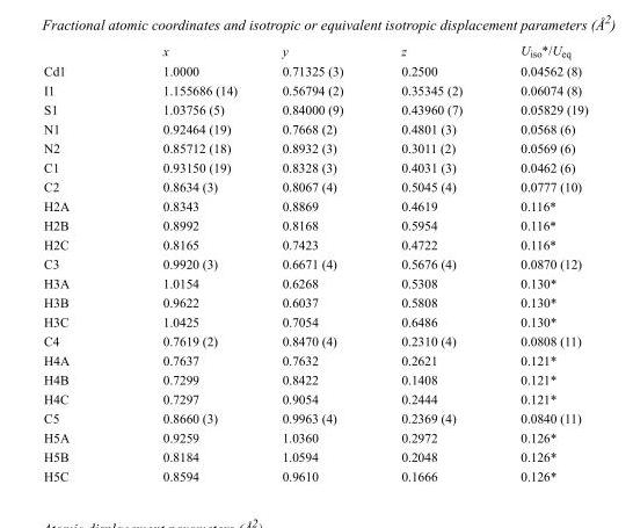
<table><thead><tr><td></td><td>x</td><td>y</td><td>z</td><td>U<sub>iso</sub>*/U<sub>eq</sub></td></tr></thead><tbody><tr><td>Cd1</td><td>1.0000</td><td>0.71325 (3)</td><td>0.2500</td><td>0.04562 (8)</td></tr><tr><td>I1</td><td>1.155686 (14)</td><td>0.56794 (2)</td><td>0.35345 (2)</td><td>0.06074 (8)</td></tr><tr><td>S1</td><td>1.03756 (5)</td><td>0.84000 (9)</td><td>0.43960 (7)</td><td>0.05829 (19)</td></tr><tr><td>N1</td><td>0.92464 (19)</td><td>0.7668 (2)</td><td>0.4801 (3)</td><td>0.0568 (6)</td></tr><tr><td>N2</td><td>0.85712 (18)</td><td>0.8932 (3)</td><td>0.3011 (2)</td><td>0.0569 (6)</td></tr><tr><td>C1</td><td>0.93150 (19)</td><td>0.8328 (3)</td><td>0.4031 (3)</td><td>0.0462 (6)</td></tr><tr><td>C2</td><td>0.8634 (3)</td><td>0.8067 (4)</td><td>0.5045 (4)</td><td>0.0777 (10)</td></tr><tr><td>H2A</td><td>0.8343</td><td>0.8869</td><td>0.4619</td><td>0.116*</td></tr><tr><td>H2B</td><td>0.8992</td><td>0.8168</td><td>0.5954</td><td>0.116*</td></tr><tr><td>H2C</td><td>0.8165</td><td>0.7423</td><td>0.4722</td><td>0.116*</td></tr><tr><td>C3</td><td>0.9920 (3)</td><td>0.6671 (4)</td><td>0.5676 (4)</td><td>0.0870 (12)</td></tr><tr><td>H3A</td><td>1.0154</td><td>0.6268</td><td>0.5308</td><td>0.130*</td></tr><tr><td>H3B</td><td>0.9622</td><td>0.6037</td><td>0.5808</td><td>0.130*</td></tr><tr><td>H3C</td><td>1.0425</td><td>0.7054</td><td>0.6486</td><td>0.130*</td></tr><tr><td>C4</td><td>0.7619 (2)</td><td>0.8470 (4)</td><td>0.2310 (4)</td><td>0.0808 (11)</td></tr><tr><td>H4A</td><td>0.7637</td><td>0.7632</td><td>0.2621</td><td>0.121*</td></tr><tr><td>H4B</td><td>0.7299</td><td>0.8422</td><td>0.1408</td><td>0.121*</td></tr><tr><td>H4C</td><td>0.7297</td><td>0.9054</td><td>0.2444</td><td>0.121*</td></tr><tr><td>C5</td><td>0.8660 (3)</td><td>0.9963 (4)</td><td>0.2369 (4)</td><td>0.0840 (11)</td></tr><tr><td>H5A</td><td>0.9259</td><td>1.0360</td><td>0.2972</td><td>0.126*</td></tr><tr><td>H5B</td><td>0.8184</td><td>1.0594</td><td>0.2048</td><td>0.126*</td></tr><tr><td>H5C</td><td>0.8594</td><td>0.9610</td><td>0.1666</td><td>0.126*</td></tr></tbody></table>